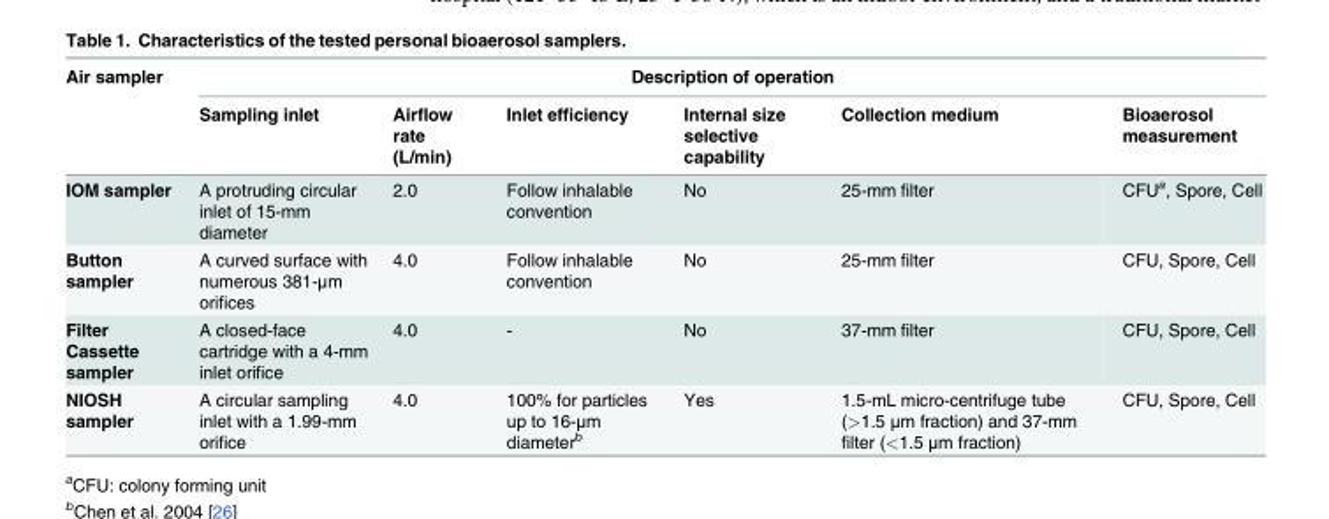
<table><thead><tr><td rowspan="2">Air sampler</td><td colspan="6">Description of operation</td></tr><tr><td>Sampling inlet</td><td>Airflow rate (L/min)</td><td>Inlet efficiency</td><td>Internal size selective capability</td><td>Collection medium</td><td>Bioaerosol measurement</td></tr></thead><tbody><tr><td>IOM sampler</td><td>A protruding circular inlet of 15-mm diameter</td><td>2.0</td><td>Follow inhalable convention</td><td>No</td><td>25-mm filter</td><td>CFU<sup>a</sup>, Spore, Cell</td></tr><tr><td>Button sampler</td><td>A curved surface with numerous 381-μm orifices</td><td>4.0</td><td>Follow inhalable convention</td><td>No</td><td>25-mm filter</td><td>CFU, Spore, Cell</td></tr><tr><td>Filter Cassette sampler</td><td>A closed-face cartridge with a 4-mm inlet orifice</td><td>4.0</td><td>-</td><td>No</td><td>37-mm filter</td><td>CFU, Spore, Cell</td></tr><tr><td>NIOSH sampler</td><td>A circular sampling inlet with a 1.99-mm orifice</td><td>4.0</td><td>100% for particles up to 16-μm diameter<sup>b</sup></td><td>Yes</td><td>1.5-mL micro-centrifuge tube (&gt;1.5 μm fraction) and 37-mm filter (&lt;1.5 μm fraction)</td><td>CFU, Spore, Cell</td></tr></tbody></table>